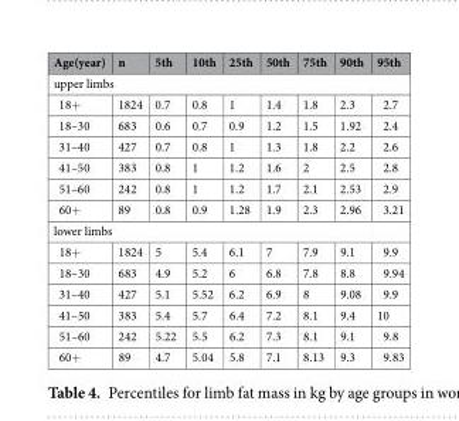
<table><thead><tr><td>Age(year)</td><td>n</td><td>5th</td><td>10th</td><td>25th</td><td>50th</td><td>75th</td><td>90th</td><td>95th</td></tr></thead><tbody><tr><td colspan="9">upper limbs</td></tr><tr><td>18+</td><td>1824</td><td>0.7</td><td>0.8</td><td>1</td><td>1.4</td><td>1.8</td><td>2.3</td><td>2.7</td></tr><tr><td>18–30</td><td>683</td><td>0.6</td><td>0.7</td><td>0.9</td><td>1.2</td><td>1.5</td><td>1.92</td><td>2.4</td></tr><tr><td>31–40</td><td>427</td><td>0.7</td><td>0.8</td><td>1</td><td>1.3</td><td>1.8</td><td>2.2</td><td>2.6</td></tr><tr><td>41–50</td><td>383</td><td>0.8</td><td>1</td><td>1.2</td><td>1.6</td><td>2</td><td>2.5</td><td>2.8</td></tr><tr><td>51–60</td><td>242</td><td>0.8</td><td>1</td><td>1.2</td><td>1.7</td><td>2.1</td><td>2.53</td><td>2.9</td></tr><tr><td>60+</td><td>89</td><td>0.8</td><td>0.9</td><td>1.28</td><td>1.9</td><td>2.3</td><td>2.96</td><td>3.21</td></tr><tr><td colspan="9">lower limbs</td></tr><tr><td>18+</td><td>1824</td><td>5</td><td>5.4</td><td>6.1</td><td>7</td><td>7.9</td><td>9.1</td><td>9.9</td></tr><tr><td>18–30</td><td>683</td><td>4.9</td><td>5.2</td><td>6</td><td>6.8</td><td>7.8</td><td>8.8</td><td>9.94</td></tr><tr><td>31–40</td><td>427</td><td>5.1</td><td>5.52</td><td>6.2</td><td>6.9</td><td>8</td><td>9.08</td><td>9.9</td></tr><tr><td>41–50</td><td>383</td><td>5.4</td><td>5.7</td><td>6.4</td><td>7.2</td><td>8.1</td><td>9.4</td><td>10</td></tr><tr><td>51–60</td><td>242</td><td>5.22</td><td>5.5</td><td>6.2</td><td>7.3</td><td>8.1</td><td>9.1</td><td>9.8</td></tr><tr><td>60+</td><td>89</td><td>4.7</td><td>5.04</td><td>5.8</td><td>7.1</td><td>8.13</td><td>9.3</td><td>9.83</td></tr></tbody></table>